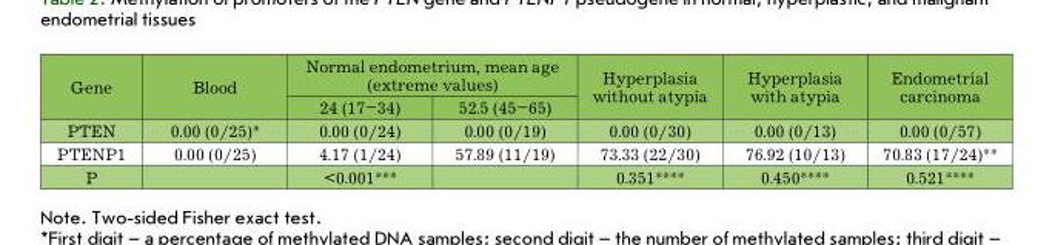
<table><thead><tr><td rowspan="2">Gene</td><td rowspan="2">Blood</td><td colspan="2">Normal endometrium, mean age (extreme values)</td><td rowspan="2">Hyperplasia without atypia</td><td rowspan="2">Hyperplasia with atypia</td><td rowspan="2">Endometrial carcinoma</td></tr><tr><td>24 (17–34)</td><td>52.5 (45–65)</td></tr></thead><tbody><tr><td>PTEN</td><td>0.00 (0/25)*</td><td>0.00 (0/24)</td><td>0.00 (0/19)</td><td>0.00 (0/30)</td><td>0.00 (0/13)</td><td>0.00 (0/57)</td></tr><tr><td>PTENP1</td><td>0.00 (0/25)</td><td>4.17 (1/24)</td><td>57.89 (11/19)</td><td>73.33 (22/30)</td><td>76.92 (10/13)</td><td>70.83 (17/24)**</td></tr><tr><td>P</td><td></td><td>&lt;0.001***</td><td></td><td>0.351****</td><td>0.450****</td><td>0.521****</td></tr></tbody></table>